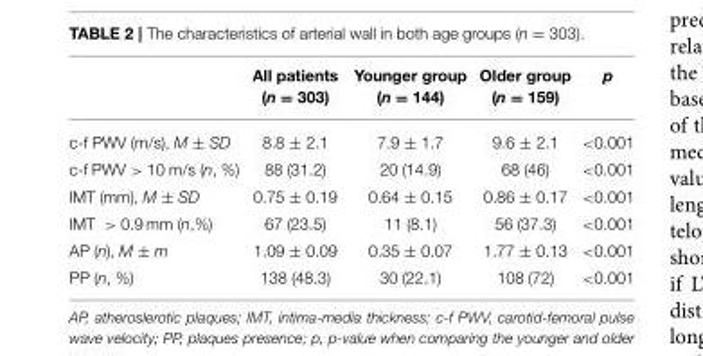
<table><thead><tr><td></td><td>All patients (n = 303)</td><td>Younger group (n = 144)</td><td>Older group (n = 159)</td><td>p</td></tr></thead><tbody><tr><td>c-f PWV (m/s), M ± SD</td><td>8.8 ± 2.1</td><td>7.9 ± 1.7</td><td>9.6 ± 2.1</td><td>&lt;0.001</td></tr><tr><td>c-f PWV &gt; 10 m/s (n, %)</td><td>88 (31.2)</td><td>20 (14.9)</td><td>68 (46)</td><td>&lt;0.001</td></tr><tr><td>IMT (mm), M ± SD</td><td>0.75 ± 0.19</td><td>0.64 ± 0.15</td><td>0.86 ± 0.17</td><td>&lt;0.001</td></tr><tr><td>IMT &gt; 0.9 mm (n,%)</td><td>67 (23.5)</td><td>11 (8.1)</td><td>56 (37.3)</td><td>&lt;0.001</td></tr><tr><td>AP (n), M ± m</td><td>1.09 ± 0.09</td><td>0.35 ± 0.07</td><td>1.77 ± 0.13</td><td>&lt;0.001</td></tr><tr><td>PP (n, %)</td><td>138 (48.3)</td><td>30 (22.1)</td><td>108 (72)</td><td>&lt;0.001</td></tr></tbody></table>